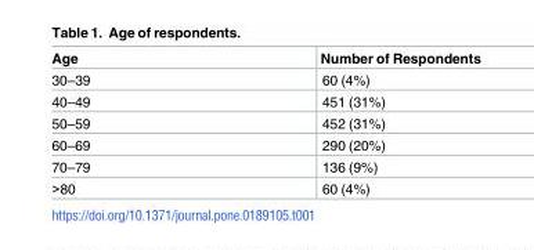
<table><thead><tr><td>Age</td><td>Number of Respondents</td></tr></thead><tbody><tr><td>30–39</td><td>60 (4%)</td></tr><tr><td>40–49</td><td>451 (31%)</td></tr><tr><td>50–59</td><td>452 (31%)</td></tr><tr><td>60–69</td><td>290 (20%)</td></tr><tr><td>70–79</td><td>136 (9%)</td></tr><tr><td>&gt;80</td><td>60 (4%)</td></tr></tbody></table>